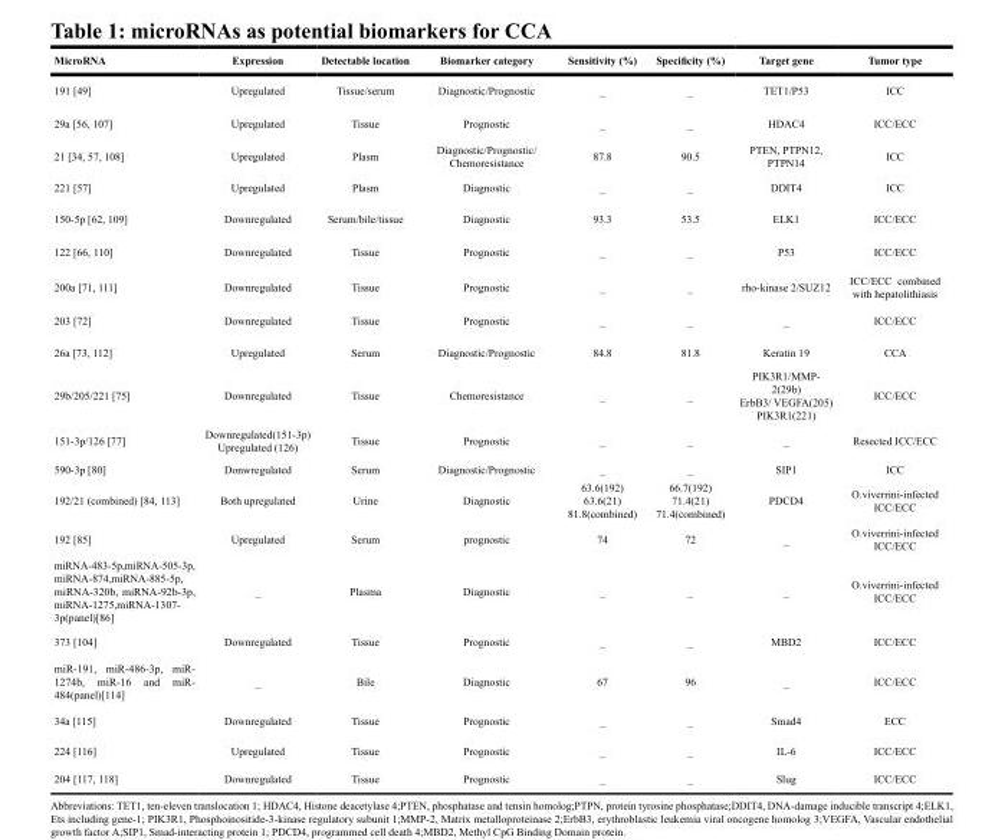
<table><thead><tr><td>MicroRNA</td><td>Expression</td><td>Detectable location</td><td>Biomarker category</td><td>Sensitivity (%)</td><td>Specificity (%)</td><td>Target gene</td><td>Tumor type</td></tr></thead><tbody><tr><td>191 [49]</td><td>Upregulated</td><td>Tissue/serum</td><td>Diagnostic/Prognostic</td><td>_</td><td>_</td><td>TET1/P53</td><td>ICC</td></tr><tr><td>29a [56, 107]</td><td>Upregulated</td><td>Tissue</td><td>Prognostic</td><td>_</td><td>_</td><td>HDAC4</td><td>ICC/ECC</td></tr><tr><td>21 [34, 57, 108]</td><td>Upregulated</td><td>Plasm</td><td>Diagnostic/Prognostic/ Chemoresistance</td><td>87.8</td><td>90.5</td><td>PTEN, PTPN12, PTPN14</td><td>ICC</td></tr><tr><td>221 [57]</td><td>Upregulated</td><td>Plasm</td><td>Diagnostic</td><td>_</td><td>_</td><td>DDIT4</td><td>ICC</td></tr><tr><td>150-5p [62, 109]</td><td>Downregulated</td><td>Serum/bile/tissue</td><td>Diagnostic</td><td>93.3</td><td>53.5</td><td>ELK1</td><td>ICC/ECC</td></tr><tr><td>122 [66, 110]</td><td>Downregulated</td><td>Tissue</td><td>Prognostic</td><td>_</td><td>_</td><td>P53</td><td>ICC/ECC</td></tr><tr><td>200a [71, 111]</td><td>Downregulated</td><td>Tissue</td><td>Prognostic</td><td>_</td><td>_</td><td>rho-kinase 2/SUZ12</td><td>ICC/ECC combined with hepatolithiasis</td></tr><tr><td>203 [72]</td><td>Downregulated</td><td>Tissue</td><td>Prognostic</td><td>_</td><td>_</td><td>_</td><td>ICC/ECC</td></tr><tr><td>26a [73, 112]</td><td>Upregulated</td><td>Serum</td><td>Diagnostic/Prognostic</td><td>84.8</td><td>81.8</td><td>Keratin 19</td><td>CCA</td></tr><tr><td>29b/205/221 [75]</td><td>Downregulated</td><td>Tissue</td><td>Chemoresistance</td><td>_</td><td>_</td><td>PIK3R1/MMP- 2(29b) ErbB3/ VEGFA(205) PIK3R1(221)</td><td>ICC/ECC</td></tr><tr><td>151-3p/126 [77]</td><td>Downregulated(151-3p) Upregulated (126)</td><td>Tissue</td><td>Prognostic</td><td>_</td><td>_</td><td>_</td><td>Resected ICC/ECC</td></tr><tr><td>590-3p [80]</td><td>Donwregulated</td><td>Serum</td><td>Diagnostic/Prognostic</td><td>_</td><td>_</td><td>SIP1</td><td>ICC</td></tr><tr><td>192/21 (combined) [84, 113]</td><td>Both upregulated</td><td>Urine</td><td>Diagnostic</td><td>63.6(192) 63.6(21) 81.8(combined)</td><td>66.7(192) 71.4(21) 71.4(combined)</td><td>PDCD4</td><td>O.viverrini-infected ICC/ECC</td></tr><tr><td>192 [85]</td><td>Upregulated</td><td>Serum</td><td>prognostic</td><td>74</td><td>72</td><td>_</td><td>O.viverrini-infected ICC/ECC</td></tr><tr><td>miRNA-483-5p,miRNA-505-3p, miRNA-874,miRNA-885-5p, miRNA-320b, miRNA-92b-3p, miRNA-1275,miRNA-1307- 3p(panel)[86]</td><td>_</td><td>Plasma</td><td>Diagnostic</td><td>_</td><td>_</td><td>_</td><td>O.viverrini-infected ICC/ECC</td></tr><tr><td>373 [104]</td><td>Downregulated</td><td>Tissue</td><td>Prognostic</td><td>_</td><td>_</td><td>MBD2</td><td>ICC/ECC</td></tr><tr><td>miR-191, miR-486-3p, miR- 1274b, miR-16 and miR- 484(panel)[114]</td><td>_</td><td>Bile</td><td>Diagnostic</td><td>67</td><td>96</td><td>_</td><td>ICC/ECC</td></tr><tr><td>34a [115]</td><td>Downregulated</td><td>Tissue</td><td>Prognostic</td><td>_</td><td>_</td><td>Smad4</td><td>ECC</td></tr><tr><td>224 [116]</td><td>Upregulated</td><td>Tissue</td><td>Prognostic</td><td>_</td><td>_</td><td>IL-6</td><td>ICC/ECC</td></tr><tr><td>204 [117, 118]</td><td>Downregulated</td><td>Tissue</td><td>Prognostic</td><td>_</td><td>_</td><td>Slug</td><td>ICC/ECC</td></tr></tbody></table>